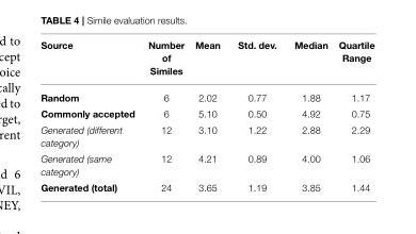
<table><thead><tr><td>Source</td><td>Number of Similes</td><td>Mean</td><td>Std. dev.</td><td>Median</td><td>Quartile Range</td></tr></thead><tbody><tr><td>Random</td><td>6</td><td>2.02</td><td>0.77</td><td>1.88</td><td>1.17</td></tr><tr><td>Commonly accepted</td><td>6</td><td>5.10</td><td>0.50</td><td>4.92</td><td>0.75</td></tr><tr><td>Generated (different category)</td><td>12</td><td>3.10</td><td>1.22</td><td>2.88</td><td>2.29</td></tr><tr><td>Generated (same category)</td><td>12</td><td>4.21</td><td>0.89</td><td>4.00</td><td>1.06</td></tr><tr><td>Generated (total)</td><td>24</td><td>3.65</td><td>1.19</td><td>3.85</td><td>1.44</td></tr></tbody></table>